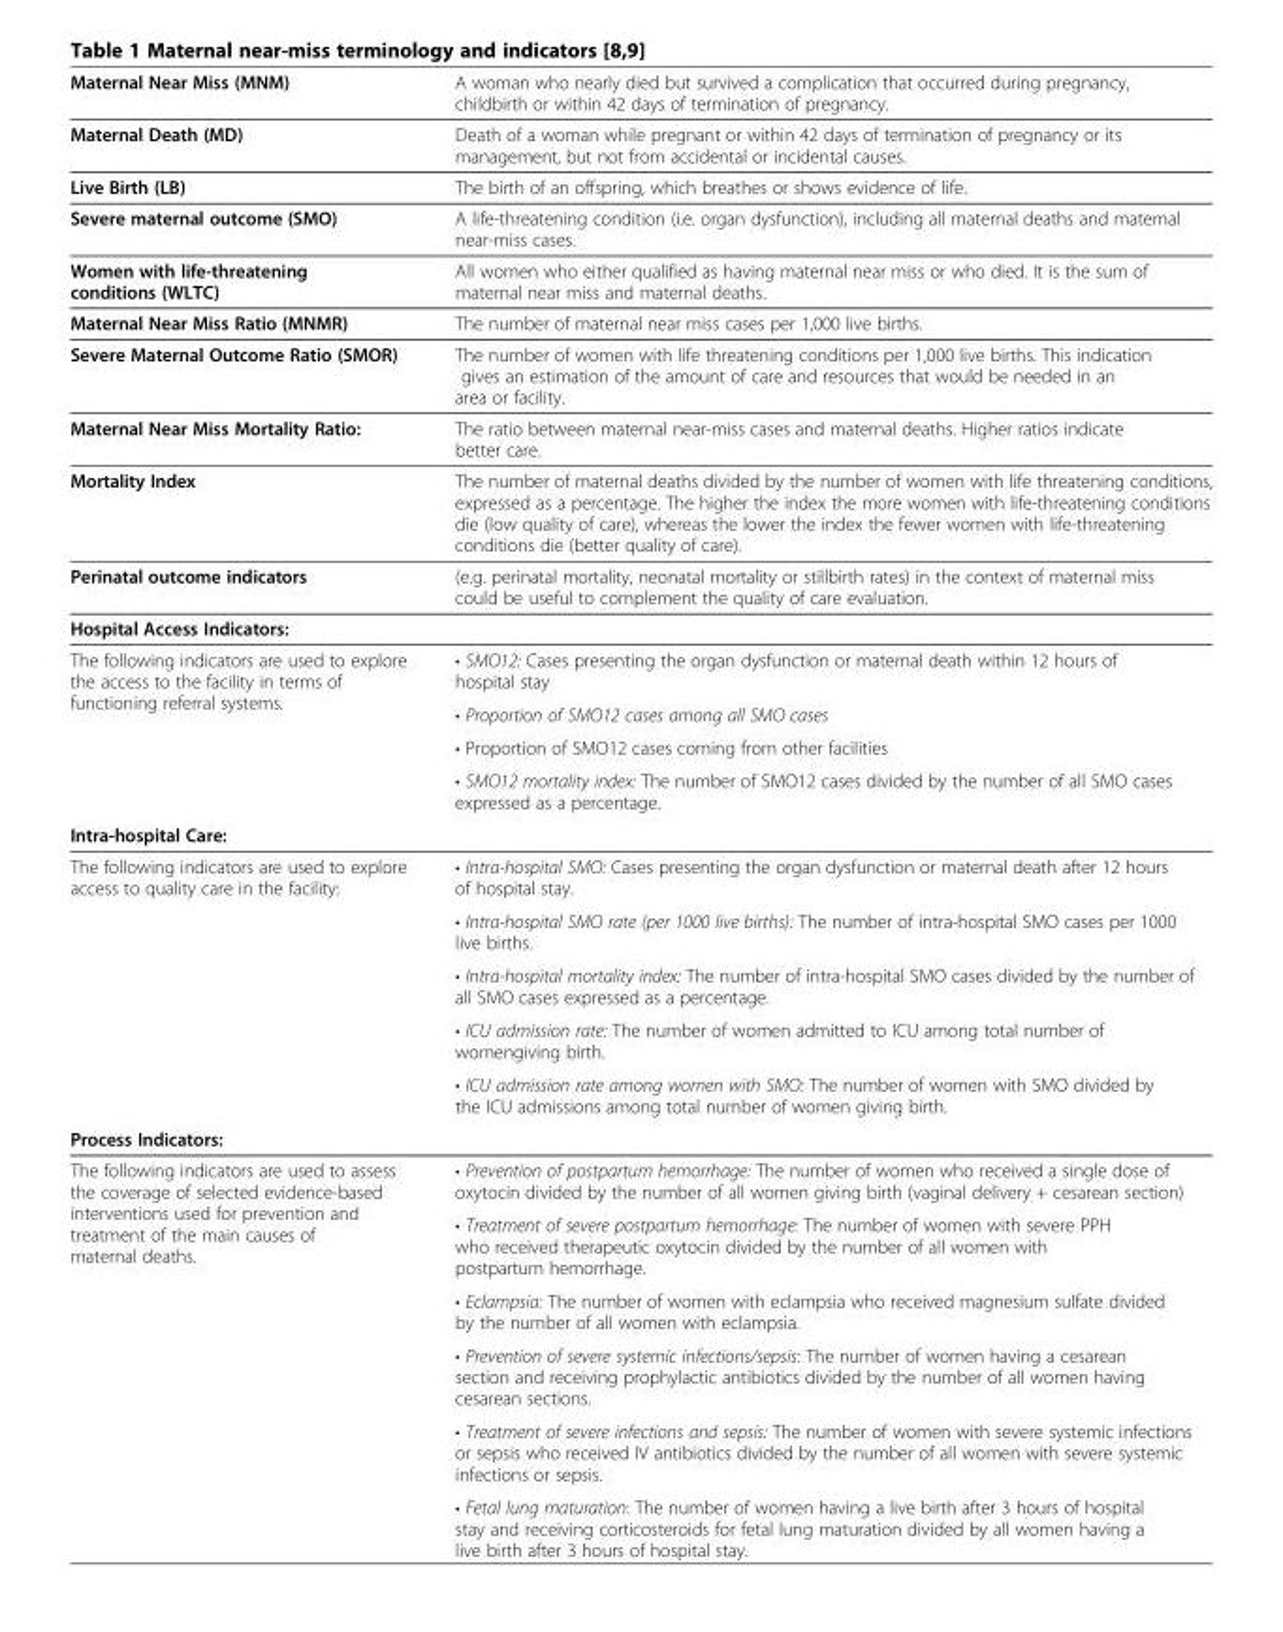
<table><tbody><tr><td>Maternal Near Miss (MNM)</td><td>A woman who nearly died but survived a complication that occurred during pregnancy, childbirth or within 42 days of termination of pregnancy.</td></tr><tr><td>Maternal Death (MD)</td><td>Death of a woman while pregnant or within 42 days of termination of pregnancy or its management, but not from accidental or incidental causes.</td></tr><tr><td>Live Birth (LB)</td><td>The birth of an offspring, which breathes or shows evidence of life.</td></tr><tr><td>Severe maternal outcome (SMO)</td><td>A life-threatening condition (i.e. organ dysfunction), including all maternal deaths and maternal near-miss cases.</td></tr><tr><td>Women with life-threatening conditions (WLTC)</td><td>All women who either qualified as having maternal near miss or who died. It is the sum of maternal near miss and maternal deaths.</td></tr><tr><td>Maternal Near Miss Ratio (MNMR)</td><td>The number of maternal near miss cases per 1,000 live births.</td></tr><tr><td>Severe Maternal Outcome Ratio (SMOR)</td><td>The number of women with life threatening conditions per 1,000 live births. This indication gives an estimation of the amount of care and resources that would be needed in an area or facility.</td></tr><tr><td>Maternal Near Miss Mortality Ratio:</td><td>The ratio between maternal near-miss cases and maternal deaths. Higher ratios indicate better care.</td></tr><tr><td>Mortality Index</td><td>The number of maternal deaths divided by the number of women with life threatening conditions, expressed as a percentage. The higher the index the more women with life-threatening conditions die (low quality of care), whereas the lower the index the fewer women with life-threatening conditions die (better quality of care).</td></tr><tr><td>Perinatal outcome indicators</td><td>(e.g. perinatal mortality, neonatal mortality or stillbirth rates) in the context of maternal miss could be useful to complement the quality of care evaluation.</td></tr><tr><td colspan="2">Hospital Access Indicators:</td></tr><tr><td rowspan="4">The following indicators are used to explore the access to the facility in terms of functioning referral systems.</td><td>• SMO12: Cases presenting the organ dysfunction or maternal death within 12 hours of hospital stay</td></tr><tr><td>• Proportion of SMO12 cases among all SMO cases</td></tr><tr><td>• Proportion of SMO12 cases coming from other facilities</td></tr><tr><td>• SMO12 mortality index: The number of SMO12 cases divided by the number of all SMO cases expressed as a percentage.</td></tr><tr><td colspan="2">Intra-hospital Care:</td></tr><tr><td rowspan="5">The following indicators are used to explore access to quality care in the facility:</td><td>• Intra-hospital SMO: Cases presenting the organ dysfunction or maternal death after 12 hours of hospital stay.</td></tr><tr><td>• Intra-hospital SMO rate (per 1000 live births): The number of intra-hospital SMO cases per 1000 live births.</td></tr><tr><td>• Intra-hospital mortality index: The number of intra-hospital SMO cases divided by the number of all SMO cases expressed as a percentage.</td></tr><tr><td>• ICU admission rate: The number of women admitted to ICU among total number of womengiving birth.</td></tr><tr><td>• ICU admission rate among women with SMO: The number of women with SMO divided by the ICU admissions among total number of women giving birth.</td></tr><tr><td colspan="2">Process Indicators:</td></tr><tr><td rowspan="6">The following indicators are used to assess the coverage of selected evidence-based interventions used for prevention and treatment of the main causes of maternal deaths.</td><td>• Prevention of postpartum hemorrhage: The number of women who received a single dose of oxytocin divided by the number of all women giving birth (vaginal delivery + cesarean section)</td></tr><tr><td>• Treatment of severe postpartum hemorrhage: The number of women with severe PPH who received therapeutic oxytocin divided by the number of all women with postpartum hemorrhage.</td></tr><tr><td>• Eclampsia: The number of women with eclampsia who received magnesium sulfate divided by the number of all women with eclampsia.</td></tr><tr><td>• Prevention of severe systemic infections/sepsis: The number of women having a cesarean section and receiving prophylactic antibiotics divided by the number of all women having cesarean sections.</td></tr><tr><td>• Treatment of severe infections and sepsis: The number of women with severe systemic infections or sepsis who received IV antibiotics divided by the number of all women with severe systemic infections or sepsis.</td></tr><tr><td>• Fetal lung maturation: The number of women having a live birth after 3 hours of hospital stay and receiving corticosteroids for fetal lung maturation divided by all women having a live birth after 3 hours of hospital stay.</td></tr></tbody></table>